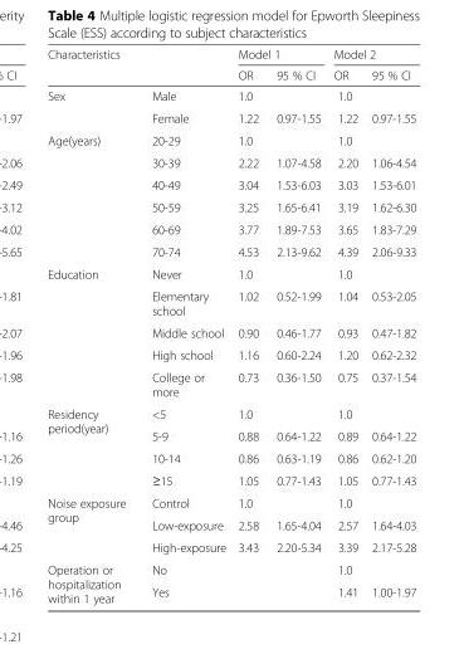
<table><thead><tr><td rowspan="2">Characteristics</td><td rowspan="2"></td><td colspan="2">Model 1</td><td colspan="2">Model 2</td></tr><tr><td>OR</td><td>95 % CI</td><td>OR</td><td>95 % CI</td></tr></thead><tbody><tr><td rowspan="2">Sex</td><td>Male</td><td>1.0</td><td></td><td>1.0</td><td></td></tr><tr><td>Female</td><td>1.22</td><td>0.97-1.55</td><td>1.22</td><td>0.97-1.55</td></tr><tr><td rowspan="6">Age(years)</td><td>20-29</td><td>1.0</td><td></td><td>1.0</td><td></td></tr><tr><td>30-39</td><td>2.22</td><td>1.07-4.58</td><td>2.20</td><td>1.06-4.54</td></tr><tr><td>40-49</td><td>3.04</td><td>1.53-6.03</td><td>3.03</td><td>1.53-6.01</td></tr><tr><td>50-59</td><td>3.25</td><td>1.65-6.41</td><td>3.19</td><td>1.62-6.30</td></tr><tr><td>60-69</td><td>3.77</td><td>1.89-7.53</td><td>3.65</td><td>1.83-7.29</td></tr><tr><td>70-74</td><td>4.53</td><td>2.13-9.62</td><td>4.39</td><td>2.06-9.33</td></tr><tr><td rowspan="5">Education</td><td>Never</td><td>1.0</td><td></td><td>1.0</td><td></td></tr><tr><td>Elementary school</td><td>1.02</td><td>0.52-1.99</td><td>1.04</td><td>0.53-2.05</td></tr><tr><td>Middle school</td><td>0.90</td><td>0.46-1.77</td><td>0.93</td><td>0.47-1.82</td></tr><tr><td>High school</td><td>1.16</td><td>0.60-2.24</td><td>1.20</td><td>0.62-2.32</td></tr><tr><td>College or more</td><td>0.73</td><td>0.36-1.50</td><td>0.75</td><td>0.37-1.54</td></tr><tr><td rowspan="4">Residency period(year)</td><td>&lt;5</td><td>1.0</td><td></td><td>1.0</td><td></td></tr><tr><td>5-9</td><td>0.88</td><td>0.64-1.22</td><td>0.89</td><td>0.64-1.22</td></tr><tr><td>10-14</td><td>0.86</td><td>0.63-1.19</td><td>0.86</td><td>0.62-1.20</td></tr><tr><td>≥15</td><td>1.05</td><td>0.77-1.43</td><td>1.05</td><td>0.77-1.43</td></tr><tr><td rowspan="3">Noise exposure group</td><td>Control</td><td>1.0</td><td></td><td>1.0</td><td></td></tr><tr><td>Low-exposure</td><td>2.58</td><td>1.65-4.04</td><td>2.57</td><td>1.64-4.03</td></tr><tr><td>High-exposure</td><td>3.43</td><td>2.20-5.34</td><td>3.39</td><td>2.17-5.28</td></tr><tr><td rowspan="2">Operation or hospitalization within 1 year</td><td>No</td><td></td><td></td><td>1.0</td><td></td></tr><tr><td>Yes</td><td></td><td></td><td>1.41</td><td>1.00-1.97</td></tr></tbody></table>